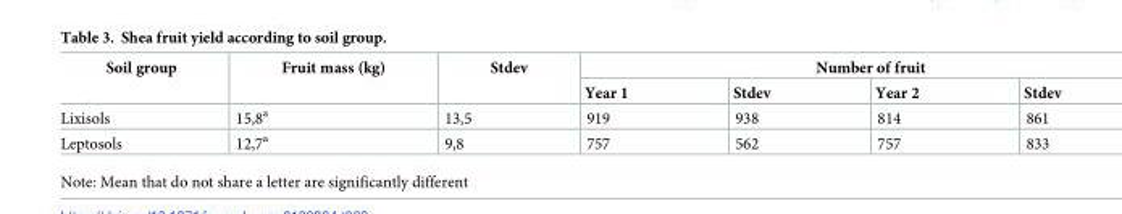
<table><thead><tr><td rowspan="2">Soil group</td><td rowspan="2">Fruit mass (kg)</td><td rowspan="2">Stdev</td><td colspan="4">Number of fruit</td></tr><tr><td>Year 1</td><td>Stdev</td><td>Year 2</td><td>Stdev</td></tr></thead><tbody><tr><td>Lixisols</td><td>15,8<sup>a</sup></td><td>13,5</td><td>919</td><td>938</td><td>814</td><td>861</td></tr><tr><td>Leptosols</td><td>12,7<sup>a</sup></td><td>9,8</td><td>757</td><td>562</td><td>757</td><td>833</td></tr></tbody></table>